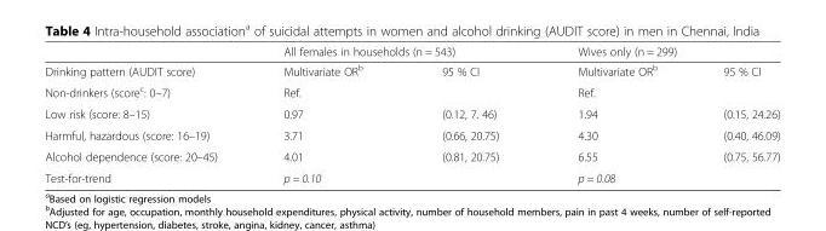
<table><thead><tr><td rowspan="2">Drinking pattern (AUDIT score)</td><td colspan="2">All females in households (n = 543)</td><td colspan="2">Wives only (n = 299)</td></tr><tr><td>Multivariate OR<sup>b</sup></td><td>95 % CI</td><td>Multivariate OR<sup>b</sup></td><td>95 % CI</td></tr></thead><tbody><tr><td>Non-drinkers (score<sup>c</sup>: 0–7)</td><td>Ref.</td><td></td><td>Ref.</td><td></td></tr><tr><td>Low risk (score: 8–15)</td><td>0.97</td><td>(0.12, 7. 46)</td><td>1.94</td><td>(0.15, 24.26)</td></tr><tr><td>Harmful, hazardous (score: 16–19)</td><td>3.71</td><td>(0.66, 20.75)</td><td>4.30</td><td>(0.40, 46.09)</td></tr><tr><td>Alcohol dependence (score: 20–45)</td><td>4.01</td><td>(0.81, 20.75)</td><td>6.55</td><td>(0.75, 56.77)</td></tr><tr><td>Test-for-trend</td><td colspan="2">p = 0.10</td><td colspan="2">p = 0.08</td></tr></tbody></table>